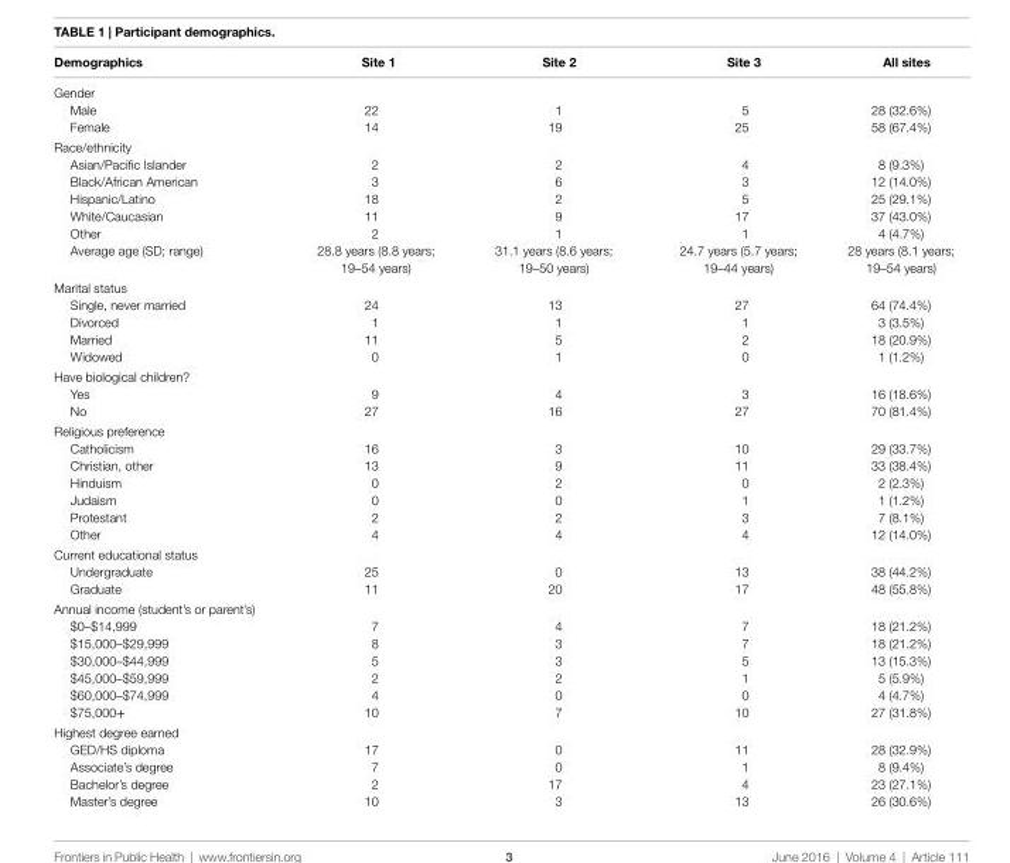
<table><thead><tr><td>Demographics</td><td>site 1</td><td>site 2</td><td>site 3</td><td>all sites</td></tr></thead><tbody><tr><td colspan="5">Gender</td></tr><tr><td>Male</td><td>22</td><td>1</td><td>5</td><td>28 (32.6%)</td></tr><tr><td>Female</td><td>14</td><td>19</td><td>25</td><td>58 (67.4%)</td></tr><tr><td colspan="5">Race/ethnicity</td></tr><tr><td>Asian/Pacific Islander</td><td>2</td><td>2</td><td>4</td><td>8 (9.3%)</td></tr><tr><td>Black/African American</td><td>3</td><td>6</td><td>3</td><td>12 (14.0%)</td></tr><tr><td>Hispanic/Latino</td><td>18</td><td>2</td><td>5</td><td>25 (29.1%)</td></tr><tr><td>White/Caucasian</td><td>11</td><td>9</td><td>17</td><td>37 (43.0%)</td></tr><tr><td>Other</td><td>2</td><td>1</td><td>1</td><td>4 (4.7%)</td></tr><tr><td>Average age (SD; range)</td><td>28.8 years (8.8 years; 19–54 years)</td><td>31.1 years (8.6 years; 19–50 years)</td><td>24.7 years (5.7 years; 19–44 years)</td><td>28 years (8.1 years; 19–54 years)</td></tr><tr><td colspan="5">Marital status</td></tr><tr><td>Single, never married</td><td>24</td><td>13</td><td>27</td><td>64 (74.4%)</td></tr><tr><td>Divorced</td><td>1</td><td>1</td><td>1</td><td>3 (3.5%)</td></tr><tr><td>Married</td><td>11</td><td>5</td><td>2</td><td>18 (20.9%)</td></tr><tr><td>Widowed</td><td>0</td><td>1</td><td>0</td><td>1 (1.2%)</td></tr><tr><td colspan="5">Have biological children?</td></tr><tr><td>Yes</td><td>9</td><td>4</td><td>3</td><td>16 (18.6%)</td></tr><tr><td>No</td><td>27</td><td>16</td><td>27</td><td>70 (81.4%)</td></tr><tr><td colspan="5">Religious preference</td></tr><tr><td>Catholicism</td><td>16</td><td>3</td><td>10</td><td>29 (33.7%)</td></tr><tr><td>Christian, other</td><td>13</td><td>9</td><td>11</td><td>33 (38.4%)</td></tr><tr><td>Hinduism</td><td>0</td><td>2</td><td>0</td><td>2 (2.3%)</td></tr><tr><td>Judaism</td><td>0</td><td>0</td><td>1</td><td>1 (1.2%)</td></tr><tr><td>Protestant</td><td>2</td><td>2</td><td>3</td><td>7 (8.1%)</td></tr><tr><td>Other</td><td>4</td><td>4</td><td>4</td><td>12 (14.0%)</td></tr><tr><td colspan="5">Current educational status</td></tr><tr><td>Undergraduate</td><td>25</td><td>0</td><td>13</td><td>38 (44.2%)</td></tr><tr><td>Graduate</td><td>11</td><td>20</td><td>17</td><td>48 (55.8%)</td></tr><tr><td colspan="5">Annual income (student’s or parent’s)</td></tr><tr><td>$0–$14,999</td><td>7</td><td>4</td><td>7</td><td>18 (21.2%)</td></tr><tr><td>$15,000–$29,999</td><td>8</td><td>3</td><td>7</td><td>18 (21.2%)</td></tr><tr><td>$30,000–$44,999</td><td>5</td><td>3</td><td>5</td><td>13 (15.3%)</td></tr><tr><td>$45,000–$59,999</td><td>2</td><td>2</td><td>1</td><td>5 (5.9%)</td></tr><tr><td>$60,000–$74,999</td><td>4</td><td>0</td><td>0</td><td>4 (4.7%)</td></tr><tr><td>$75,000+</td><td>10</td><td>7</td><td>10</td><td>27 (31.8%)</td></tr><tr><td colspan="5">Highest degree earned</td></tr><tr><td>GED/HS diploma</td><td>17</td><td>0</td><td>11</td><td>28 (32.9%)</td></tr><tr><td>Associate’s degree</td><td>7</td><td>0</td><td>1</td><td>8 (9.4%)</td></tr><tr><td>Bachelor’s degree</td><td>2</td><td>17</td><td>4</td><td>23 (27.1%)</td></tr><tr><td>Master’s degree</td><td>10</td><td>3</td><td>13</td><td>26 (30.6%)</td></tr></tbody></table>